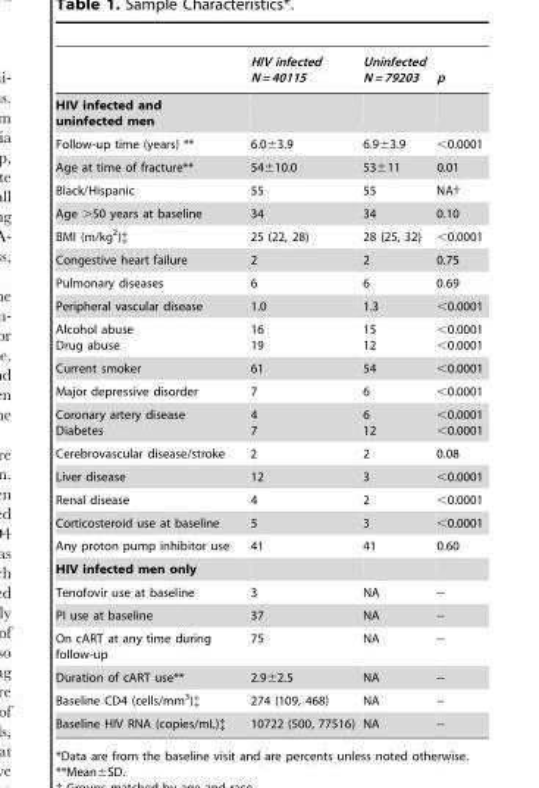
<table><thead><tr><td></td><td>HIV infected N = 40115</td><td>Uninfected N = 79203</td><td>p</td></tr></thead><tbody><tr><td colspan="4">HIV infected and uninfected men</td></tr><tr><td>Follow-up time (years) **</td><td>6.0±3.9</td><td>6.9±3.9</td><td>&lt;0.0001</td></tr><tr><td>Age at time of fracture**</td><td>54±10.0</td><td>53±11</td><td>0.01</td></tr><tr><td>Black/Hispanic</td><td>55</td><td>55</td><td>NA†</td></tr><tr><td>Age &gt;50 years at baseline</td><td>34</td><td>34</td><td>0.10</td></tr><tr><td>BMI (m/kg<sup>2</sup>)‡</td><td>25 (22, 28)</td><td>28 (25, 32)</td><td>&lt;0.0001</td></tr><tr><td>Congestive heart failure</td><td>2</td><td>2</td><td>0.75</td></tr><tr><td>Pulmonary diseases</td><td>6</td><td>6</td><td>0.69</td></tr><tr><td>Peripheral vascular disease</td><td>1.0</td><td>1.3</td><td>&lt;0.0001</td></tr><tr><td>Alcohol abuse Drug abuse</td><td>16 19</td><td>15 12</td><td>&lt;0.0001 &lt;0.0001</td></tr><tr><td>Current smoker</td><td>61</td><td>54</td><td>&lt;0.0001</td></tr><tr><td>Major depressive disorder</td><td>7</td><td>6</td><td>&lt;0.0001</td></tr><tr><td>Coronary artery disease Diabetes</td><td>4 7</td><td>6 12</td><td>&lt;0.0001 &lt;0.0001</td></tr><tr><td>Cerebrovascular disease/stroke</td><td>2</td><td>2</td><td>0.08</td></tr><tr><td>Liver disease</td><td>12</td><td>3</td><td>&lt;0.0001</td></tr><tr><td>Renal disease</td><td>4</td><td>2</td><td>&lt;0.0001</td></tr><tr><td>Corticosteroid use at baseline</td><td>5</td><td>3</td><td>&lt;0.0001</td></tr><tr><td>Any proton pump inhibitor use</td><td>41</td><td>41</td><td>0.60</td></tr><tr><td colspan="4">HIV infected men only</td></tr><tr><td>Tenofovir use at baseline</td><td>3</td><td>NA</td><td>--</td></tr><tr><td>PI use at baseline</td><td>37</td><td>NA</td><td>--</td></tr><tr><td>On cART at any time during follow-up</td><td>75</td><td>NA</td><td>--</td></tr><tr><td>Duration of cART use**</td><td>2.9±2.5</td><td>NA</td><td>--</td></tr><tr><td>Baseline CD4 (cells/mm<sup>3</sup>)‡</td><td>274 (109, 468)</td><td>NA</td><td>--</td></tr><tr><td>Baseline HIV RNA (copies/mL)‡</td><td>10722 (500, 77516)</td><td>NA</td><td>--</td></tr></tbody></table>